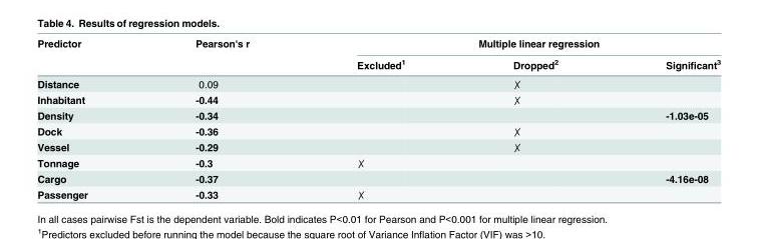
<table><thead><tr><td rowspan="2">Predictor</td><td rowspan="2">Pearson&#x27;s r</td><td colspan="3">Multiple linear regression</td></tr><tr><td>Excluded<sup>1</sup></td><td>Dropped<sup>2</sup></td><td>Significant<sup>3</sup></td></tr></thead><tbody><tr><td>Distance</td><td>0.09</td><td></td><td>✗</td><td></td></tr><tr><td>Inhabitant</td><td>-0.44</td><td></td><td>✗</td><td></td></tr><tr><td>Density</td><td>-0.34</td><td></td><td></td><td>-1.03e-05</td></tr><tr><td>Dock</td><td>-0.36</td><td></td><td>✗</td><td></td></tr><tr><td>Vessel</td><td>-0.29</td><td></td><td>✗</td><td></td></tr><tr><td>Tonnage</td><td>-0.3</td><td>✗</td><td></td><td></td></tr><tr><td>Cargo</td><td>-0.37</td><td></td><td></td><td>-4.16e-08</td></tr><tr><td>Passenger</td><td>-0.33</td><td>✗</td><td></td><td></td></tr></tbody></table>